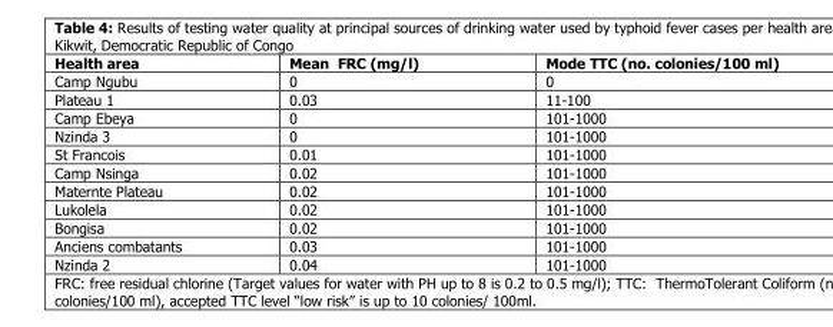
<table><thead><tr><td>Health area</td><td>Mean FRC (mg/l)</td><td>Mode TTC (no. colonies/100 ml)</td></tr></thead><tbody><tr><td>Camp Ngubu</td><td>0</td><td>0</td></tr><tr><td>Plateau 1</td><td>0.03</td><td>11-100</td></tr><tr><td>Camp Ebeya</td><td>0</td><td>101-1000</td></tr><tr><td>Nzinda 3</td><td>0</td><td>101-1000</td></tr><tr><td>St Francois</td><td>0.01</td><td>101-1000</td></tr><tr><td>Camp Nsinga</td><td>0.02</td><td>101-1000</td></tr><tr><td>Maternte Plateau</td><td>0.02</td><td>101-1000</td></tr><tr><td>Lukolela</td><td>0.02</td><td>101-1000</td></tr><tr><td>Bongisa</td><td>0.02</td><td>101-1000</td></tr><tr><td>Anciens combatants</td><td>0.03</td><td>101-1000</td></tr><tr><td>Nzinda 2</td><td>0.04</td><td>101-1000</td></tr></tbody></table>